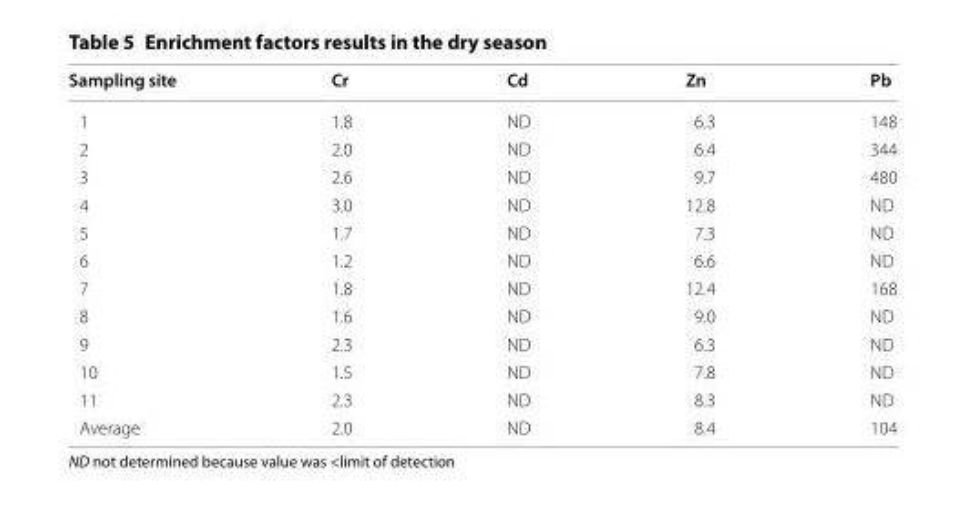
<table><thead><tr><td>Sampling site</td><td>Cr</td><td>Cd</td><td>Zn</td><td>Pb</td></tr></thead><tbody><tr><td>1</td><td>1.8</td><td>ND</td><td>6.3</td><td>148</td></tr><tr><td>2</td><td>2.0</td><td>ND</td><td>6.4</td><td>344</td></tr><tr><td>3</td><td>2.6</td><td>ND</td><td>9.7</td><td>480</td></tr><tr><td>4</td><td>3.0</td><td>ND</td><td>12.8</td><td>ND</td></tr><tr><td>5</td><td>1.7</td><td>ND</td><td>7.3</td><td>ND</td></tr><tr><td>6</td><td>1.2</td><td>ND</td><td>6.6</td><td>ND</td></tr><tr><td>7</td><td>1.8</td><td>ND</td><td>12.4</td><td>168</td></tr><tr><td>8</td><td>1.6</td><td>ND</td><td>9.0</td><td>ND</td></tr><tr><td>9</td><td>2.3</td><td>ND</td><td>6.3</td><td>ND</td></tr><tr><td>10</td><td>1.5</td><td>ND</td><td>7.8</td><td>ND</td></tr><tr><td>11</td><td>2.3</td><td>ND</td><td>8.3</td><td>ND</td></tr><tr><td>Average</td><td>2.0</td><td>ND</td><td>8.4</td><td>104</td></tr></tbody></table>